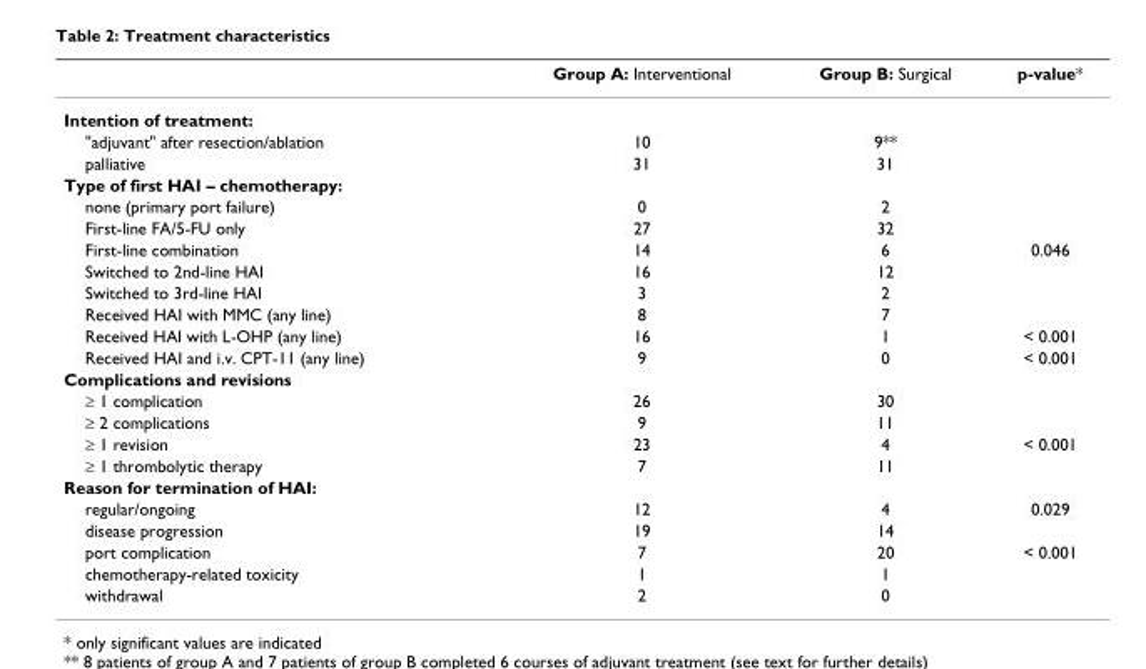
<table><thead><tr><td></td><td>Group A: Interventional</td><td>Group B: Surgical</td><td>p-value*</td></tr></thead><tbody><tr><td colspan="4">Intention of treatment:</td></tr><tr><td>&quot;adjuvant&quot; after resection/ablation</td><td>10</td><td>9**</td><td></td></tr><tr><td>palliative</td><td>31</td><td>31</td><td></td></tr><tr><td colspan="4">Type of first HAI – chemotherapy:</td></tr><tr><td>none (primary port failure)</td><td>0</td><td>2</td><td></td></tr><tr><td>First-line FA/5-FU only</td><td>27</td><td>32</td><td></td></tr><tr><td>First-line combination</td><td>14</td><td>6</td><td>0.046</td></tr><tr><td>Switched to 2nd-line HAI</td><td>16</td><td>12</td><td></td></tr><tr><td>Switched to 3rd-line HAI</td><td>3</td><td>2</td><td></td></tr><tr><td>Received HAI with MMC (any line)</td><td>8</td><td>7</td><td></td></tr><tr><td>Received HAI with L-OHP (any line)</td><td>16</td><td>1</td><td>&lt; 0.001</td></tr><tr><td>Received HAI and i.v. CPT-11 (any line)</td><td>9</td><td>0</td><td>&lt; 0.001</td></tr><tr><td colspan="4">Complications and revisions</td></tr><tr><td>≥ 1 complication</td><td>26</td><td>30</td><td></td></tr><tr><td>≥ 2 complications</td><td>9</td><td>11</td><td></td></tr><tr><td>≥ 1 revision</td><td>23</td><td>4</td><td>&lt; 0.001</td></tr><tr><td>≥ 1 thrombolytic therapy</td><td>7</td><td>11</td><td></td></tr><tr><td colspan="4">Reason for termination of HAI:</td></tr><tr><td>regular/ongoing</td><td>12</td><td>4</td><td>0.029</td></tr><tr><td>disease progression</td><td>19</td><td>14</td><td></td></tr><tr><td>port complication</td><td>7</td><td>20</td><td>&lt; 0.001</td></tr><tr><td>chemotherapy-related toxicity</td><td>1</td><td>1</td><td></td></tr><tr><td>withdrawal</td><td>2</td><td>0</td><td></td></tr></tbody></table>